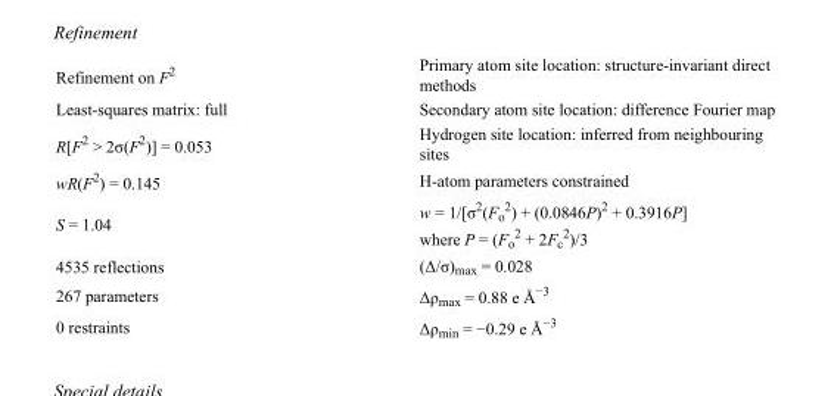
<table><tbody><tr><td>Refinement on F<sup>2</sup></td><td>Primary atom site location: structure-invariant direct methods</td></tr><tr><td>Least-squares matrix: full</td><td>Secondary atom site location: difference Fourier map</td></tr><tr><td>R[F<sup>2</sup> &gt; 2σ(F<sup>2</sup>)] = 0.053</td><td>Hydrogen site location: inferred from neighbouring sites</td></tr><tr><td>wR(F<sup>2</sup>) = 0.145</td><td>H-atom parameters constrained</td></tr><tr><td>S = 1.04</td><td>w = 1/[σ<sup>2</sup>(F<sub>o</sub> <sup>2</sup>) + (0.0846P)<sup>2</sup> + 0.3916P] where P = (F<sub>o</sub> <sup>2</sup> + 2F<sub>c</sub> <sup>2</sup>)/3</td></tr><tr><td>4535 reflections</td><td>(Δ/σ)<sub>max</sub> = 0.028</td></tr><tr><td>267 parameters</td><td>Δρ<sub>max</sub> = 0.88 e Å<sup>−3</sup></td></tr><tr><td>0 restraints</td><td>Δρ<sub>min</sub> = −0.29 e Å<sup>−3</sup></td></tr></tbody></table>